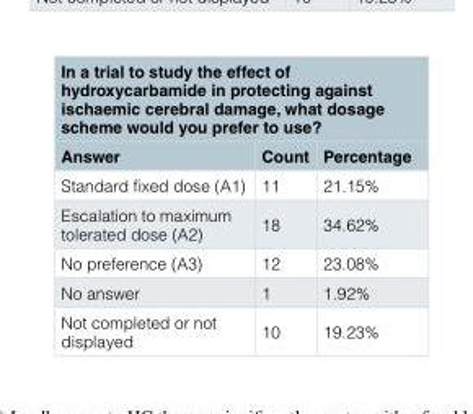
<table><thead><tr><td colspan="3">In a trial to study the effect of hydroxycarbamide in protecting against ischaemic cerebral damage, what dosage scheme would you prefer to use?</td></tr><tr><td>Answer</td><td>Count</td><td>Percentage</td></tr></thead><tbody><tr><td>Standard fixed dose (A1)</td><td>11</td><td>21.15%</td></tr><tr><td>Escalation to maximum tolerated dose (A2)</td><td>18</td><td>34.62%</td></tr><tr><td>No preference (A3)</td><td>12</td><td>23.08%</td></tr><tr><td>No answer</td><td>1</td><td>1.92%</td></tr><tr><td>Not completed or not displayed</td><td>10</td><td>19.23%</td></tr></tbody></table>